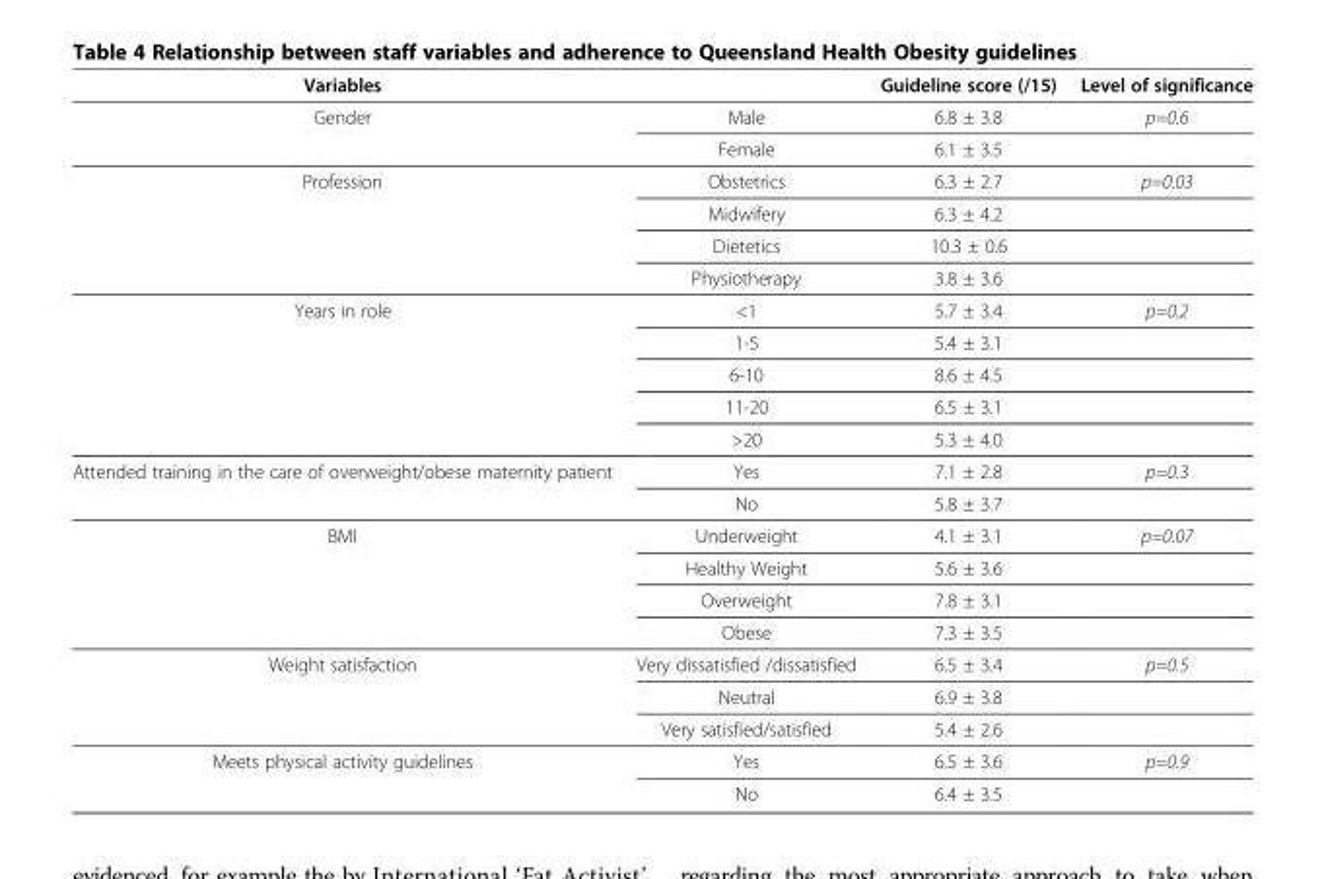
<table><thead><tr><td>Variables</td><td></td><td>Guideline score (/15)</td><td>Level of significance</td></tr></thead><tbody><tr><td rowspan="2">Gender</td><td>Male</td><td>6.8 ± 3.8</td><td>p=0.6</td></tr><tr><td>Female</td><td>6.1 ± 3.5</td><td></td></tr><tr><td rowspan="4">Profession</td><td>Obstetrics</td><td>6.3 ± 2.7</td><td>p=0.03</td></tr><tr><td>Midwifery</td><td>6.3 ± 4.2</td><td></td></tr><tr><td>Dietetics</td><td>10.3 ± 0.6</td><td></td></tr><tr><td>Physiotherapy</td><td>3.8 ± 3.6</td><td></td></tr><tr><td rowspan="5">Years in role</td><td>&lt;1</td><td>5.7 ± 3.4</td><td>p=0.2</td></tr><tr><td>1-5</td><td>5.4 ± 3.1</td><td></td></tr><tr><td>6-10</td><td>8.6 ± 4.5</td><td></td></tr><tr><td>11-20</td><td>6.5 ± 3.1</td><td></td></tr><tr><td>&gt;20</td><td>5.3 ± 4.0</td><td></td></tr><tr><td rowspan="2">Attended training in the care of overweight/obese maternity patient</td><td>Yes</td><td>7.1 ± 2.8</td><td>p=0.3</td></tr><tr><td>No</td><td>5.8 ± 3.7</td><td></td></tr><tr><td rowspan="4">BMI</td><td>Underweight</td><td>4.1 ± 3.1</td><td>p=0.07</td></tr><tr><td>Healthy Weight</td><td>5.6 ± 3.6</td><td></td></tr><tr><td>Overweight</td><td>7.8 ± 3.1</td><td></td></tr><tr><td>Obese</td><td>7.3 ± 3.5</td><td></td></tr><tr><td rowspan="3">Weight satisfaction</td><td>Very dissatisfied /dissatisfied</td><td>6.5 ± 3.4</td><td>p=0.5</td></tr><tr><td>Neutral</td><td>6.9 ± 3.8</td><td></td></tr><tr><td>Very satisfied/satisfied</td><td>5.4 ± 2.6</td><td></td></tr><tr><td rowspan="2">Meets physical activity guidelines</td><td>Yes</td><td>6.5 ± 3.6</td><td>p=0.9</td></tr><tr><td>No</td><td>6.4 ± 3.5</td><td></td></tr></tbody></table>